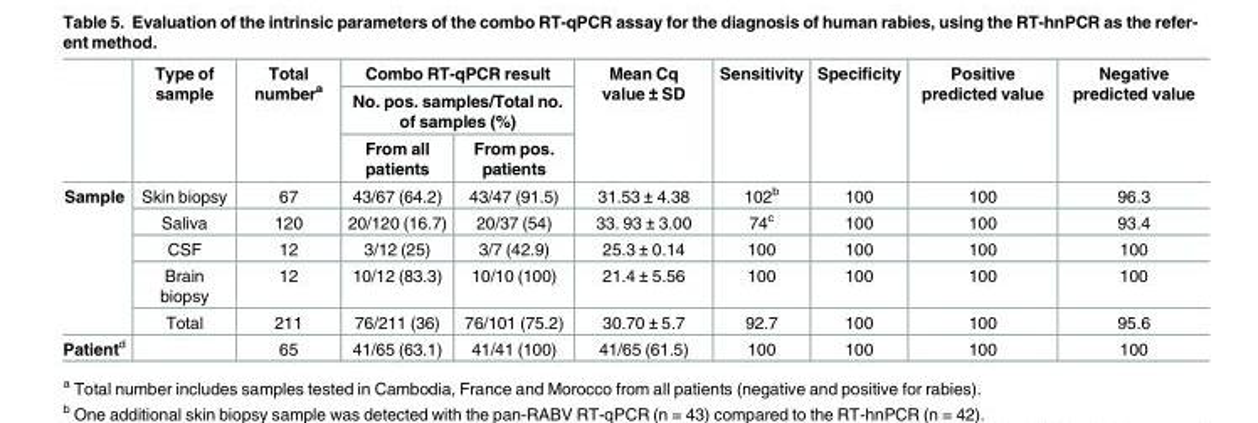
<table><thead><tr><td rowspan="3"></td><td rowspan="3">Type of sample</td><td rowspan="3">Total number<sup>a</sup></td><td rowspan="2" colspan="2">Combo RT-qPCR result No. pos. samples/Total no. of samples (%)</td><td rowspan="3">Mean Cq value ± SD</td><td rowspan="3">Sensitivity</td><td rowspan="3">Specificity</td><td rowspan="3">Positive predicted value</td><td rowspan="3">Negative predicted value</td></tr><tr></tr><tr><td>From all patients</td><td>From pos. patients</td></tr></thead><tbody><tr><td rowspan="5">Sample</td><td>Skin biopsy</td><td>67</td><td>43/67 (64.2)</td><td>43/47 (91.5)</td><td>31.53 ± 4.38</td><td>102<sup>b</sup></td><td>100</td><td>100</td><td>96.3</td></tr><tr><td>Saliva</td><td>120</td><td>20/120 (16.7)</td><td>20/37 (54)</td><td>33. 93 ± 3.00</td><td>74<sup>c</sup></td><td>100</td><td>100</td><td>93.4</td></tr><tr><td>CSF</td><td>12</td><td>3/12 (25)</td><td>3/7 (42.9)</td><td>25.3 ± 0.14</td><td>100</td><td>100</td><td>100</td><td>100</td></tr><tr><td>Brain biopsy</td><td>12</td><td>10/12 (83.3)</td><td>10/10 (100)</td><td>21.4 ± 5.56</td><td>100</td><td>100</td><td>100</td><td>100</td></tr><tr><td>Total</td><td>211</td><td>76/211 (36)</td><td>76/101 (75.2)</td><td>30.70 ± 5.7</td><td>92.7</td><td>100</td><td>100</td><td>95.6</td></tr><tr><td>Patient<sup>d</sup></td><td></td><td>65</td><td>41/65 (63.1)</td><td>41/41 (100)</td><td>41/65 (61.5)</td><td>100</td><td>100</td><td>100</td><td>100</td></tr></tbody></table>